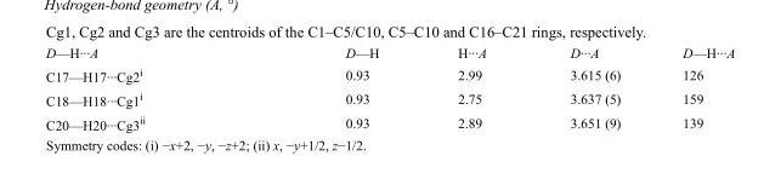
<table><tbody><tr><td>D—H···A</td><td>D—H</td><td>H···A</td><td>D···A</td><td>D—H···A</td></tr><tr><td>C17—H17···Cg2<sup>i</sup></td><td>0.93</td><td>2.99</td><td>3.615 (6)</td><td>126</td></tr><tr><td>C18—H18···Cg1<sup>i</sup></td><td>0.93</td><td>2.75</td><td>3.637 (5)</td><td>159</td></tr><tr><td>C20—H20···Cg3<sup>ii</sup></td><td>0.93</td><td>2.89</td><td>3.651 (9)</td><td>139</td></tr></tbody></table>